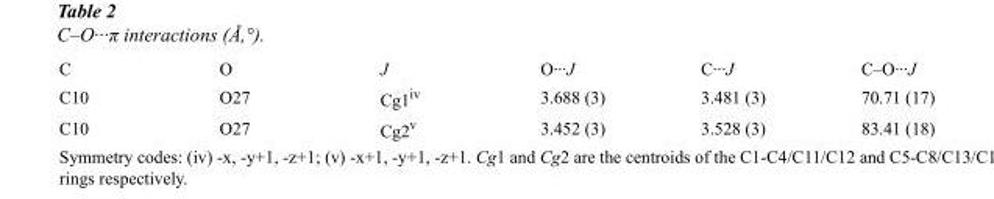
<table><tbody><tr><td>C</td><td>O</td><td>J</td><td>O···J</td><td>C···J</td><td>C–O···J</td></tr><tr><td>C10</td><td>O27</td><td>Cg1<sup>iv</sup></td><td>3.688 (3)</td><td>3.481 (3)</td><td>70.71 (17)</td></tr><tr><td>C10</td><td>O27</td><td>Cg2<sup>v</sup></td><td>3.452 (3)</td><td>3.528 (3)</td><td>83.41 (18)</td></tr></tbody></table>